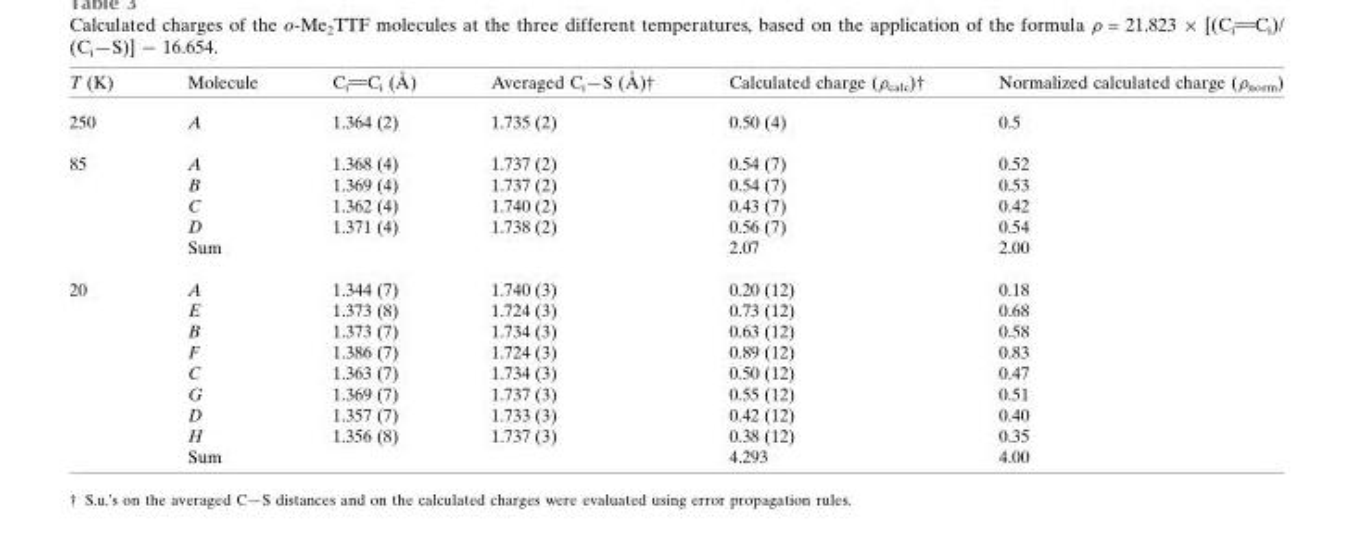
<table><thead><tr><td>T (K)</td><td>Molecule</td><td>Ci Ci (A˚ )</td><td>Averaged Ci—S (A˚ )†</td><td>Calculated charge (ρ<sub>calc</sub>)†</td><td>Normalized calculated charge (ρ<sub>norm</sub>)</td></tr></thead><tbody><tr><td>250</td><td>A</td><td>1.364 (2)</td><td>1.735 (2)</td><td>0.50 (4)</td><td>0.5</td></tr><tr><td rowspan="5">85</td><td>A</td><td>1.368 (4)</td><td>1.737 (2)</td><td>0.54 (7)</td><td>0.52</td></tr><tr><td>B</td><td>1.369 (4)</td><td>1.737 (2)</td><td>0.54 (7)</td><td>0.53</td></tr><tr><td>C</td><td>1.362 (4)</td><td>1.740 (2)</td><td>0.43 (7)</td><td>0.42</td></tr><tr><td>D</td><td>1.371 (4)</td><td>1.738 (2)</td><td>0.56 (7)</td><td>0.54</td></tr><tr><td>Sum</td><td></td><td></td><td>2.07</td><td>2.00</td></tr><tr><td rowspan="9">20</td><td>A</td><td>1.344 (7)</td><td>1.740 (3)</td><td>0.20 (12)</td><td>0.18</td></tr><tr><td>E</td><td>1.373 (8)</td><td>1.724 (3)</td><td>0.73 (12)</td><td>0.68</td></tr><tr><td>B</td><td>1.373 (7)</td><td>1.734 (3)</td><td>0.63 (12)</td><td>0.58</td></tr><tr><td>F</td><td>1.386 (7)</td><td>1.724 (3)</td><td>0.89 (12)</td><td>0.83</td></tr><tr><td>C</td><td>1.363 (7)</td><td>1.734 (3)</td><td>0.50 (12)</td><td>0.47</td></tr><tr><td>G</td><td>1.369 (7)</td><td>1.737 (3)</td><td>0.55 (12)</td><td>0.51</td></tr><tr><td>D</td><td>1.357 (7)</td><td>1.733 (3)</td><td>0.42 (12)</td><td>0.40</td></tr><tr><td>H</td><td>1.356 (8)</td><td>1.737 (3)</td><td>0.38 (12)</td><td>0.35</td></tr><tr><td>Sum</td><td></td><td></td><td>4.293</td><td>4.00</td></tr></tbody></table>